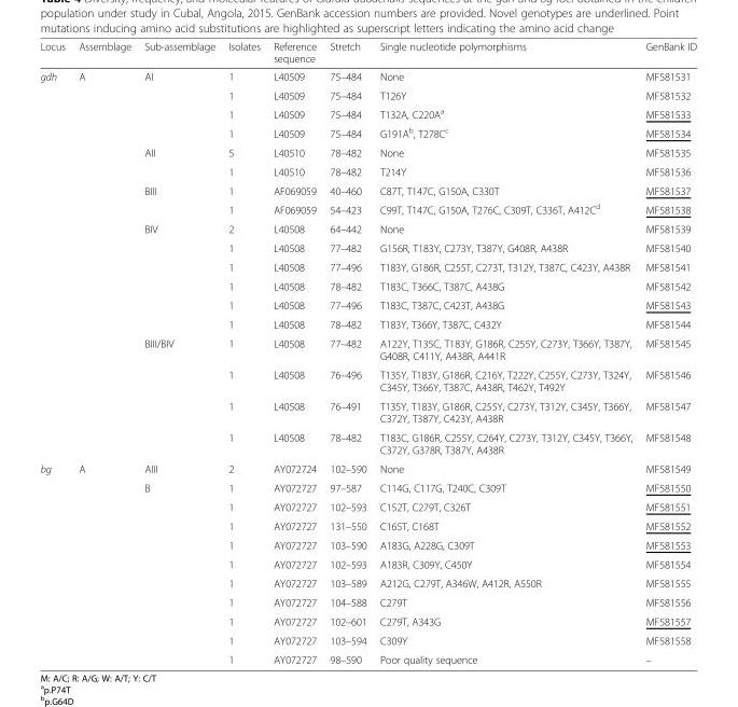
<table><thead><tr><td>Locus</td><td>Assemblage</td><td>Sub-assemblage</td><td>Isolates</td><td>Reference sequence</td><td>Stretch</td><td>Single nucleotide polymorphisms</td><td>GenBank ID</td></tr></thead><tbody><tr><td rowspan="18">gdh</td><td>A</td><td rowspan="4">AI</td><td>1</td><td>L40509</td><td>75–484</td><td>None</td><td>MF581531</td></tr><tr><td></td><td>1</td><td>L40509</td><td>75–484</td><td>T126Y</td><td>MF581532</td></tr><tr><td></td><td>1</td><td>L40509</td><td>75–484</td><td>T132A, C220A<sup>a</sup></td><td>MF581533</td></tr><tr><td></td><td>1</td><td>L40509</td><td>75–484</td><td>G191A<sup>b</sup>, T278C<sup>c</sup></td><td>MF581534</td></tr><tr><td></td><td rowspan="2">AII</td><td>5</td><td>L40510</td><td>78–482</td><td>None</td><td>MF581535</td></tr><tr><td></td><td>1</td><td>L40510</td><td>78–482</td><td>T214Y</td><td>MF581536</td></tr><tr><td></td><td rowspan="2">BIII</td><td>1</td><td>AF069059</td><td>40–460</td><td>C87T, T147C, G150A, C330T</td><td>MF581537</td></tr><tr><td></td><td>1</td><td>AF069059</td><td>54–423</td><td>C99T, T147C, G150A, T276C, C309T, C336T, A412C<sup>d</sup></td><td>MF581538</td></tr><tr><td></td><td rowspan="6">BIV</td><td>2</td><td>L40508</td><td>64–442</td><td>None</td><td>MF581539</td></tr><tr><td></td><td>1</td><td>L40508</td><td>77–482</td><td>G156R, T183Y, C273Y, T387Y, G408R, A438R</td><td>MF581540</td></tr><tr><td></td><td>1</td><td>L40508</td><td>77–496</td><td>T183Y, G186R, C255T, C273T, T312Y, T387C, C423Y, A438R</td><td>MF581541</td></tr><tr><td></td><td>1</td><td>L40508</td><td>78–482</td><td>T183C, T366C, T387C, A438G</td><td>MF581542</td></tr><tr><td></td><td>1</td><td>L40508</td><td>77–496</td><td>T183C, T387C, C423T, A438G</td><td>MF581543</td></tr><tr><td></td><td>1</td><td>L40508</td><td>78–482</td><td>T183Y, T366Y, T387C, C432Y</td><td>MF581544</td></tr><tr><td></td><td rowspan="4">BIII/BIV</td><td>1</td><td>L40508</td><td>77–482</td><td>A122Y, T135C, T183Y, G186R, C255Y, C273Y, T366Y, T387Y, G408R, C411Y, A438R, A441R</td><td>MF581545</td></tr><tr><td></td><td>1</td><td>L40508</td><td>76–496</td><td>T135Y, T183Y, G186R, C216Y, T222Y, C255Y, C273Y, T324Y, C345Y, T366Y, T387C, A438R, T462Y, T492Y</td><td>MF581546</td></tr><tr><td></td><td>1</td><td>L40508</td><td>76–491</td><td>T135Y, T183Y, G186R, C255Y, C273Y, T312Y, C345Y, T366Y, C372Y, T387Y, C423Y, A438R</td><td>MF581547</td></tr><tr><td></td><td>1</td><td>L40508</td><td>78–482</td><td>T183C, G186R, C255Y, C264Y, C273Y, T312Y, C345Y, T366Y, C372Y, G378R, T387Y, A438R</td><td>MF581548</td></tr><tr><td rowspan="11">bg</td><td>A</td><td>AIII</td><td>2</td><td>AY072724</td><td>102–590</td><td>None</td><td>MF581549</td></tr><tr><td></td><td rowspan="10">B</td><td>1</td><td>AY072727</td><td>97–587</td><td>C114G, C117G, T240C, C309T</td><td>MF581550</td></tr><tr><td></td><td>1</td><td>AY072727</td><td>102–593</td><td>C152T, C279T, C326T</td><td>MF581551</td></tr><tr><td></td><td>1</td><td>AY072727</td><td>131–550</td><td>C165T, C168T</td><td>MF581552</td></tr><tr><td></td><td>1</td><td>AY072727</td><td>103–590</td><td>A183G, A228G, C309T</td><td>MF581553</td></tr><tr><td></td><td>1</td><td>AY072727</td><td>102–593</td><td>A183R, C309Y, C450Y</td><td>MF581554</td></tr><tr><td></td><td>1</td><td>AY072727</td><td>103–589</td><td>A212G, C279T, A346W, A412R, A550R</td><td>MF581555</td></tr><tr><td></td><td>1</td><td>AY072727</td><td>104–588</td><td>C279T</td><td>MF581556</td></tr><tr><td></td><td>1</td><td>AY072727</td><td>102–601</td><td>C279T, A343G</td><td>MF581557</td></tr><tr><td></td><td>1</td><td>AY072727</td><td>103–594</td><td>C309Y</td><td>MF581558</td></tr><tr><td></td><td>1</td><td>AY072727</td><td>98–590</td><td>Poor quality sequence</td><td>–</td></tr></tbody></table>